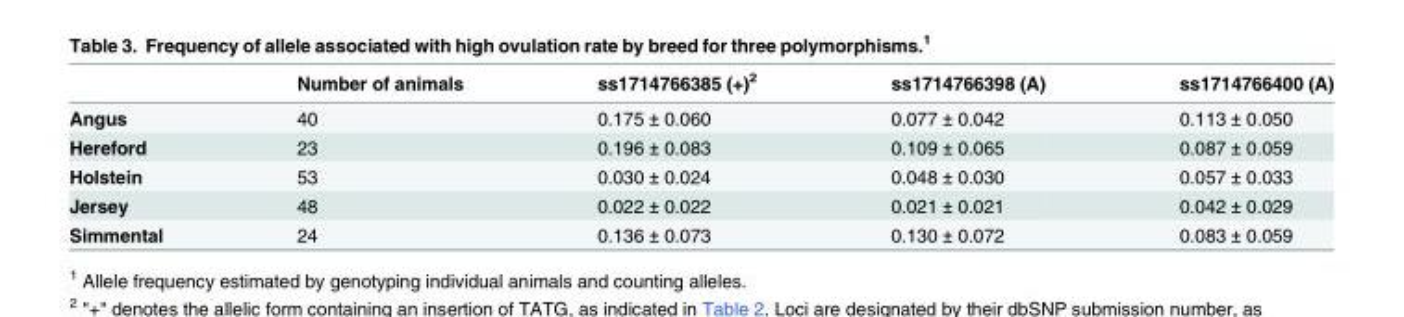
<table><thead><tr><td></td><td>Number of animals</td><td>ss1714766385 (+)<sup>2</sup></td><td>ss1714766398 (A)</td><td>ss1714766400 (A)</td></tr></thead><tbody><tr><td>Angus</td><td>40</td><td>0.175 ± 0.060</td><td>0.077 ± 0.042</td><td>0.113 ± 0.050</td></tr><tr><td>Hereford</td><td>23</td><td>0.196 ± 0.083</td><td>0.109 ± 0.065</td><td>0.087 ± 0.059</td></tr><tr><td>Holstein</td><td>53</td><td>0.030 ± 0.024</td><td>0.048 ± 0.030</td><td>0.057 ± 0.033</td></tr><tr><td>Jersey</td><td>48</td><td>0.022 ± 0.022</td><td>0.021 ± 0.021</td><td>0.042 ± 0.029</td></tr><tr><td>Simmental</td><td>24</td><td>0.136 ± 0.073</td><td>0.130 ± 0.072</td><td>0.083 ± 0.059</td></tr></tbody></table>